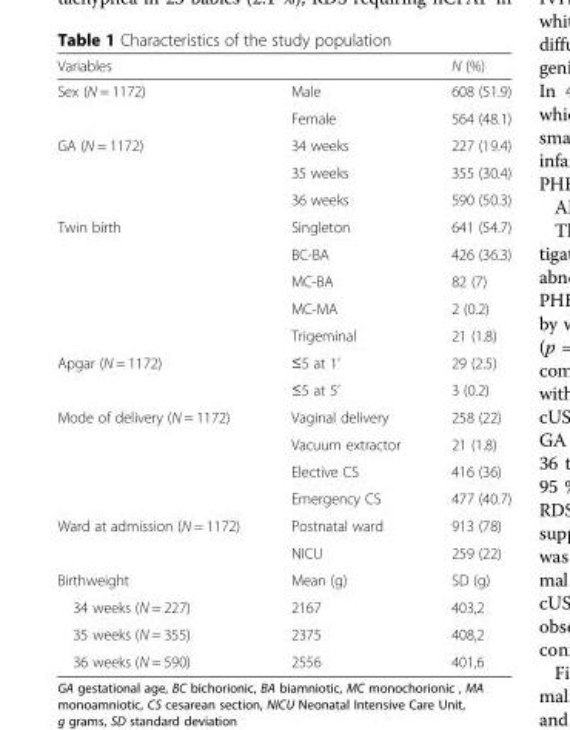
<table><thead><tr><td colspan="2">Variables</td><td rowspan="2">N (%) 608 (51.9)</td></tr><tr><td>Sex (N = 1172)</td><td>Male</td></tr></thead><tbody><tr><td></td><td>Female</td><td>564 (48.1)</td></tr><tr><td rowspan="3">GA (N = 1172)</td><td>34 weeks</td><td>227 (19.4)</td></tr><tr><td>35 weeks</td><td>355 (30.4)</td></tr><tr><td>36 weeks</td><td>590 (50.3)</td></tr><tr><td rowspan="5">Twin birth</td><td>Singleton</td><td>641 (54.7)</td></tr><tr><td>BC-BA</td><td>426 (36.3)</td></tr><tr><td>MC-BA</td><td>82 (7)</td></tr><tr><td>MC-MA</td><td>2 (0.2)</td></tr><tr><td>Trigeminal</td><td>21 (1.8)</td></tr><tr><td rowspan="2">Apgar (N = 1172)</td><td>≤5 at 1’</td><td>29 (2.5)</td></tr><tr><td>≤5 at 5’</td><td>3 (0.2)</td></tr><tr><td rowspan="4">Mode of delivery (N = 1172)</td><td>Vaginal delivery</td><td>258 (22)</td></tr><tr><td>Vacuum extractor</td><td>21 (1.8)</td></tr><tr><td>Elective CS</td><td>416 (36)</td></tr><tr><td>Emergency CS</td><td>477 (40.7)</td></tr><tr><td rowspan="2">Ward at admission (N = 1172)</td><td>Postnatal ward</td><td>913 (78)</td></tr><tr><td>NICU</td><td>259 (22)</td></tr><tr><td>Birthweight</td><td>Mean (g)</td><td>SD (g)</td></tr><tr><td>34 weeks (N = 227)</td><td>2167</td><td>403,2</td></tr><tr><td>35 weeks (N = 355)</td><td>2375</td><td>408,2</td></tr><tr><td>36 weeks (N = 590)</td><td>2556</td><td>401,6</td></tr></tbody></table>